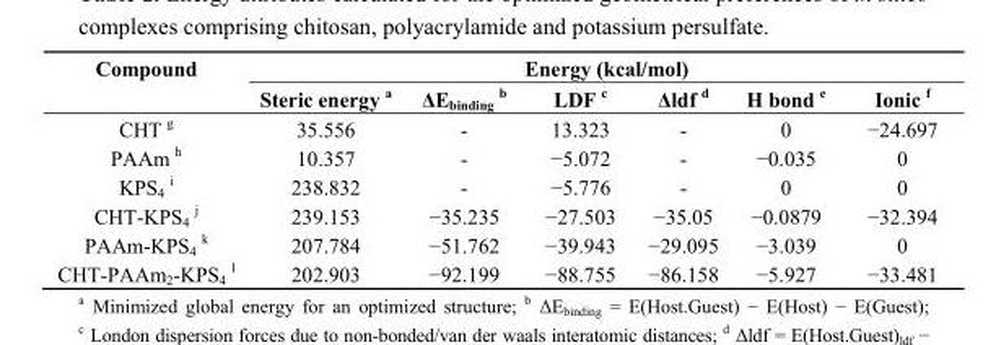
<table><thead><tr><td rowspan="2">Compound</td><td colspan="6">Energy (kcal/mol)</td></tr><tr><td>Steric energy a</td><td>ΔE<sub>binding</sub> <sup>b</sup></td><td>LDF c</td><td>Δldf d</td><td>H bond e</td><td>Ionic f</td></tr></thead><tbody><tr><td>CHT g</td><td>35.556</td><td>-</td><td>13.323</td><td>-</td><td>0</td><td>−24.697</td></tr><tr><td>PAAm h</td><td>10.357</td><td>-</td><td>−5.072</td><td>-</td><td>−0.035</td><td>0</td></tr><tr><td>KPS<sub>4</sub> <sup>i</sup></td><td>238.832</td><td>-</td><td>−5.776</td><td>-</td><td>0</td><td>0</td></tr><tr><td>CHT-KPS<sub>4</sub> <sup>j</sup></td><td>239.153</td><td>−35.235</td><td>−27.503</td><td>−35.05</td><td>−0.0879</td><td>−32.394</td></tr><tr><td>PAAm-KPS<sub>4</sub> <sup>k</sup></td><td>207.784</td><td>−51.762</td><td>−39.943</td><td>−29.095</td><td>−3.039</td><td>0</td></tr><tr><td>CHT-PAAm<sub>2</sub>-KPS<sub>4</sub> <sup>l</sup></td><td>202.903</td><td>−92.199</td><td>−88.755</td><td>−86.158</td><td>−5.927</td><td>−33.481</td></tr></tbody></table>